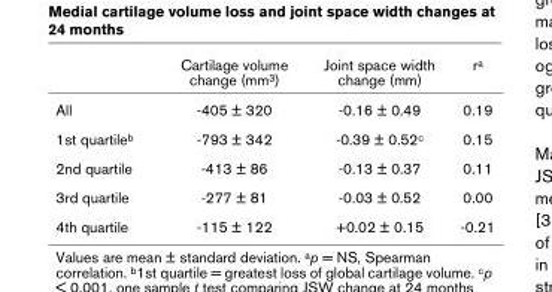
<table><thead><tr><td></td><td>Cartilage volume change (mm3)</td><td>Joint space width change (mm)</td><td>ra</td></tr></thead><tbody><tr><td>All</td><td>-405 ± 320</td><td>-0.16 ± 0.49</td><td>0.19</td></tr><tr><td>1st quartileb</td><td>-793 ± 342</td><td>-0.39 ± 0.52c</td><td>0.15</td></tr><tr><td>2nd quartile</td><td>-413 ± 86</td><td>-0.13 ± 0.37</td><td>0.11</td></tr><tr><td>3rd quartile</td><td>-277 ± 81</td><td>-0.03 ± 0.52</td><td>0.00</td></tr><tr><td>4th quartile</td><td>-115 ± 122</td><td>+0.02 ± 0.15</td><td>-0.21</td></tr></tbody></table>